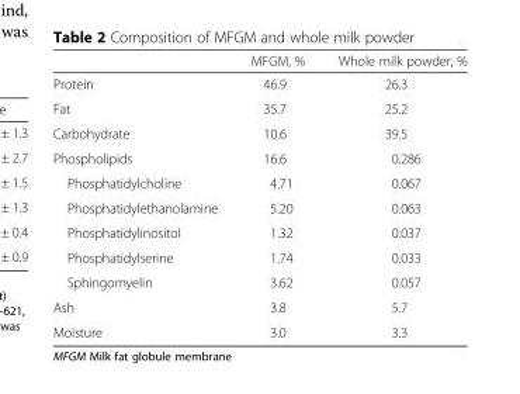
<table><thead><tr><td></td><td>MFGM, %</td><td>Whole milk powder, %</td></tr></thead><tbody><tr><td>Protein</td><td>46.9</td><td>26.3</td></tr><tr><td>Fat</td><td>35.7</td><td>25.2</td></tr><tr><td>Carbohydrate</td><td>10.6</td><td>39.5</td></tr><tr><td>Phospholipids</td><td>16.6</td><td>0.286</td></tr><tr><td>Phosphatidylcholine</td><td>4.71</td><td>0.067</td></tr><tr><td>Phosphatidylethanolamine</td><td>5.20</td><td>0.063</td></tr><tr><td>Phosphatidylinositol</td><td>1.32</td><td>0.037</td></tr><tr><td>Phosphatidylserine</td><td>1.74</td><td>0.033</td></tr><tr><td>Sphingomyelin</td><td>3.62</td><td>0.057</td></tr><tr><td>Ash</td><td>3.8</td><td>5.7</td></tr><tr><td>Moisture</td><td>3.0</td><td>3.3</td></tr></tbody></table>